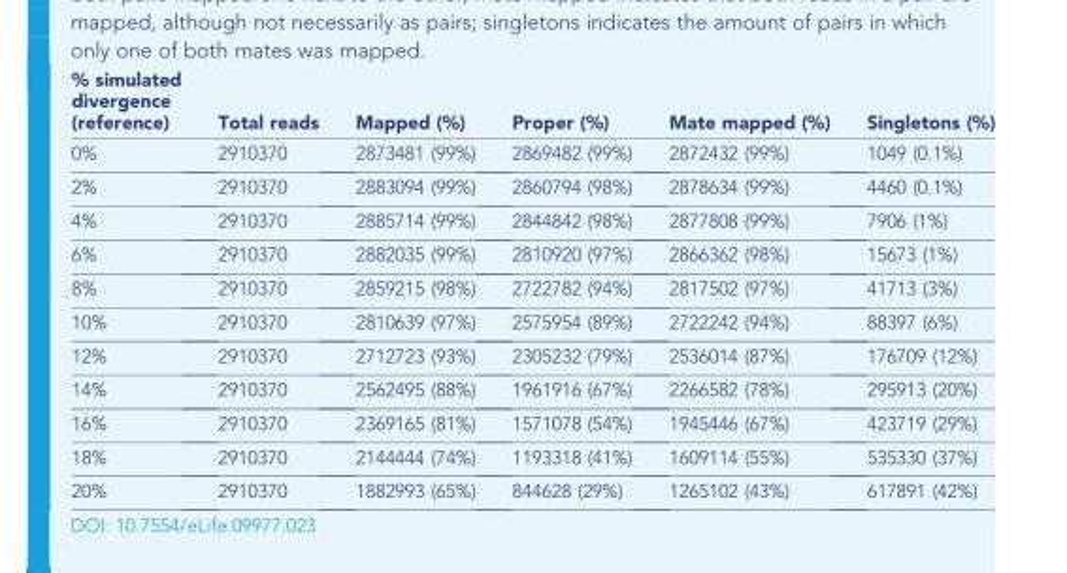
<table><thead><tr><td>% simulated divergence (reference)</td><td>Total reads</td><td>Mapped (%)</td><td>Proper (%)</td><td>Mate mapped (%)</td><td>Singletons (%)</td></tr></thead><tbody><tr><td>0%</td><td>2910370</td><td>2873481 (99%)</td><td>2869482 (99%)</td><td>2872432 (99%)</td><td>1049 (0.1%)</td></tr><tr><td>2%</td><td>2910370</td><td>2883094 (99%)</td><td>2860794 (98%)</td><td>2878634 (99%)</td><td>4460 (0.1%)</td></tr><tr><td>4%</td><td>2910370</td><td>2885714 (99%)</td><td>2844842 (98%)</td><td>2877808 (99%)</td><td>7906 (1%)</td></tr><tr><td>6%</td><td>2910370</td><td>2882035 (99%)</td><td>2810920 (97%)</td><td>2866362 (98%)</td><td>15673 (1%)</td></tr><tr><td>8%</td><td>2910370</td><td>2859215 (98%)</td><td>2722782 (94%)</td><td>2817502 (97%)</td><td>41713 (3%)</td></tr><tr><td>10%</td><td>2910370</td><td>2810639 (97%)</td><td>2575954 (89%)</td><td>2722242 (94%)</td><td>88397 (6%)</td></tr><tr><td>12%</td><td>2910370</td><td>2712723 (93%)</td><td>2305232 (79%)</td><td>2536014 (87%)</td><td>176709 (12%)</td></tr><tr><td>14%</td><td>2910370</td><td>2562495 (88%)</td><td>1961916 (67%)</td><td>2266582 (78%)</td><td>295913 (20%)</td></tr><tr><td>16%</td><td>2910370</td><td>2369165 (81%)</td><td>1571078 (54%)</td><td>1945446 (67%)</td><td>423719 (29%)</td></tr><tr><td>18%</td><td>2910370</td><td>2144444 (74%)</td><td>1193318 (41%)</td><td>1609114 (55%)</td><td>535330 (37%)</td></tr><tr><td>20%</td><td>2910370</td><td>1882993 (65%)</td><td>844628 (29%)</td><td>1265102 (43%)</td><td>617891 (42%)</td></tr></tbody></table>